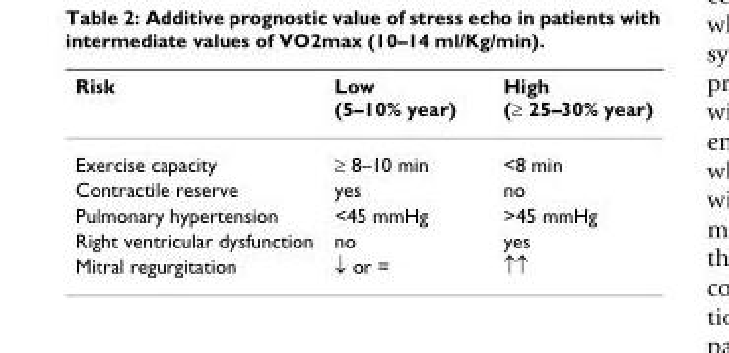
<table><thead><tr><td>Risk</td><td>Low (5–10% year)</td><td>High (≥ 25–30% year)</td></tr></thead><tbody><tr><td>Exercise capacity</td><td>≥ 8–10 min</td><td>&lt;8 min</td></tr><tr><td>Contractile reserve</td><td>yes</td><td>no</td></tr><tr><td>Pulmonary hypertension</td><td>&lt;45 mmHg</td><td>&gt;45 mmHg</td></tr><tr><td>Right ventricular dysfunction</td><td>no</td><td>yes</td></tr><tr><td>Mitral regurgitation</td><td>↓ or =</td><td>↑↑</td></tr></tbody></table>